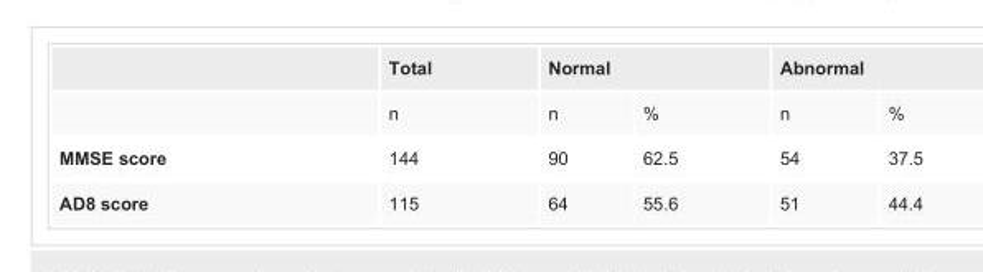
<table><thead><tr><td rowspan="2"></td><td rowspan="2">Total n</td><td colspan="2">Normal</td><td colspan="2">Abnormal</td></tr><tr><td>n</td><td>%</td><td>n</td><td>%</td></tr></thead><tbody><tr><td>MMSE score</td><td>144</td><td>90</td><td>62.5</td><td>54</td><td>37.5</td></tr><tr><td>AD8 score</td><td>115</td><td>64</td><td>55.6</td><td>51</td><td>44.4</td></tr></tbody></table>